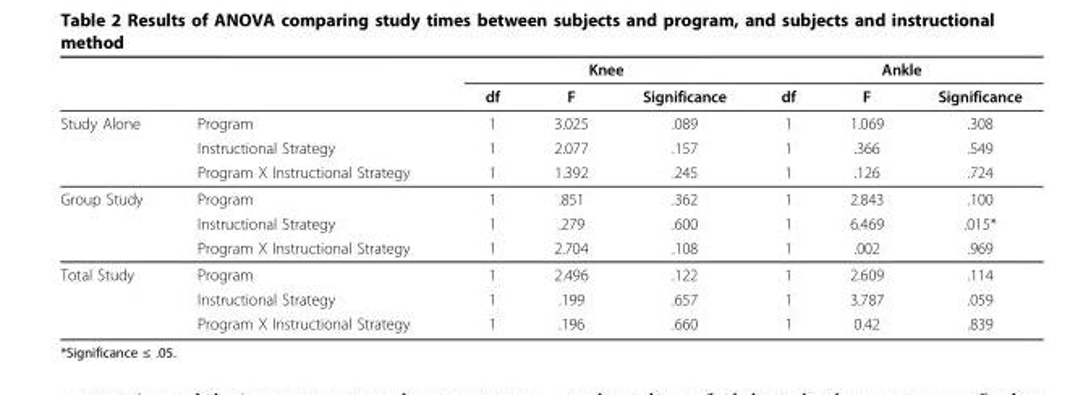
<table><thead><tr><td rowspan="2"></td><td rowspan="2"></td><td colspan="3">Knee</td><td colspan="3">Ankle</td></tr><tr><td>df</td><td>F</td><td>Significance</td><td>df</td><td>F</td><td>Significance</td></tr></thead><tbody><tr><td rowspan="3">Study Alone</td><td>Program</td><td>1</td><td>3.025</td><td>.089</td><td>1</td><td>1.069</td><td>.308</td></tr><tr><td>Instructional Strategy</td><td>1</td><td>2.077</td><td>.157</td><td>1</td><td>.366</td><td>.549</td></tr><tr><td>Program X Instructional Strategy</td><td>1</td><td>1.392</td><td>.245</td><td>1</td><td>.126</td><td>.724</td></tr><tr><td rowspan="3">Group Study</td><td>Program</td><td>1</td><td>.851</td><td>.362</td><td>1</td><td>2.843</td><td>.100</td></tr><tr><td>Instructional Strategy</td><td>1</td><td>.279</td><td>.600</td><td>1</td><td>6.469</td><td>.015*</td></tr><tr><td>Program X Instructional Strategy</td><td>1</td><td>2.704</td><td>.108</td><td>1</td><td>.002</td><td>.969</td></tr><tr><td rowspan="3">Total Study</td><td>Program</td><td>1</td><td>2.496</td><td>.122</td><td>1</td><td>2.609</td><td>.114</td></tr><tr><td>Instructional Strategy</td><td>1</td><td>.199</td><td>.657</td><td>1</td><td>3.787</td><td>.059</td></tr><tr><td>Program X Instructional Strategy</td><td>1</td><td>.196</td><td>.660</td><td>1</td><td>0.42</td><td>.839</td></tr></tbody></table>